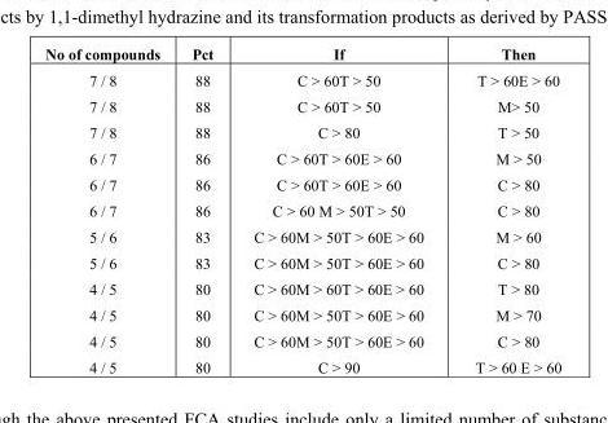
<table><thead><tr><td>No of compounds</td><td>Pct</td><td>If</td><td>Then</td></tr></thead><tbody><tr><td>7 / 8</td><td>88</td><td>C &gt; 60T &gt; 50</td><td>T &gt; 60E &gt; 60</td></tr><tr><td>7 / 8</td><td>88</td><td>C &gt; 60T &gt; 50</td><td>M&gt; 50</td></tr><tr><td>7 / 8</td><td>88</td><td>C &gt; 80</td><td>T &gt; 50</td></tr><tr><td>6 / 7</td><td>86</td><td>C &gt; 60T &gt; 60E &gt; 60</td><td>M &gt; 50</td></tr><tr><td>6 / 7</td><td>86</td><td>C &gt; 60T &gt; 60E &gt; 60</td><td>C &gt; 80</td></tr><tr><td>6 / 7</td><td>86</td><td>C &gt; 60 M &gt; 50T &gt; 50</td><td>C &gt; 80</td></tr><tr><td>5 / 6</td><td>83</td><td>C &gt; 60M &gt; 50T &gt; 60E &gt; 60</td><td>M &gt; 60</td></tr><tr><td>5 / 6</td><td>83</td><td>C &gt; 60M &gt; 50T &gt; 60E &gt; 60</td><td>C &gt; 80</td></tr><tr><td>4 / 5</td><td>80</td><td>C &gt; 60M &gt; 60T &gt; 60E &gt; 60</td><td>T &gt; 80</td></tr><tr><td>4 / 5</td><td>80</td><td>C &gt; 60M &gt; 50T &gt; 60E &gt; 60</td><td>M &gt; 70</td></tr><tr><td>4 / 5</td><td>80</td><td>C &gt; 60M &gt; 50T &gt; 60E &gt; 60</td><td>C &gt; 80</td></tr><tr><td>4 / 5</td><td>80</td><td>C &gt; 90</td><td>T &gt; 60 E &gt; 60</td></tr></tbody></table>